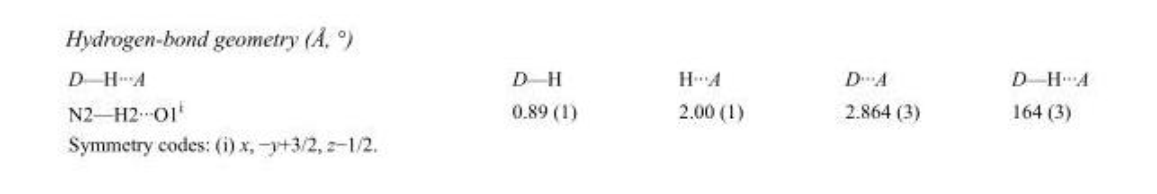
<table><tbody><tr><td>D—H···A</td><td>D—H</td><td>H···A</td><td>D···A</td><td>D—H···A</td></tr><tr><td>N2—H2···O1<sup>i</sup></td><td>0.89 (1)</td><td>2.00 (1)</td><td>2.864 (3)</td><td>164 (3)</td></tr></tbody></table>